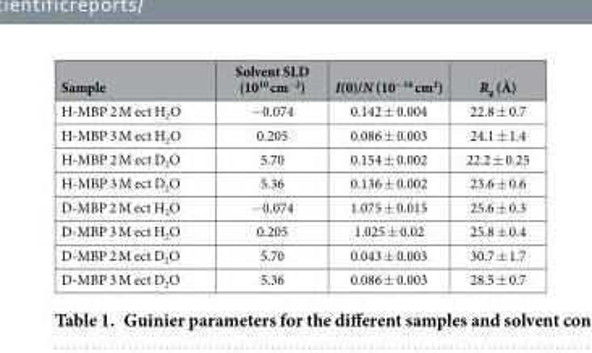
<table><thead><tr><td>Sample</td><td>Solvent SLD (10<sup>10</sup> cm<sup>−2</sup>)</td><td>I(0)/N (10<sup>−16</sup> cm<sup>2</sup>)</td><td>R<sub>g</sub> (Å)</td></tr></thead><tbody><tr><td>H-MBP 2 M ect H<sub>2</sub>O</td><td>− 0.074</td><td>0.142 ± 0.004</td><td>22.8 ± 0.7</td></tr><tr><td>H-MBP 3 M ect H<sub>2</sub>O</td><td>0.205</td><td>0.086 ± 0.003</td><td>24.1 ± 1.4</td></tr><tr><td>H-MBP 2 M ect D<sub>2</sub>O</td><td>5.70</td><td>0.154 ± 0.002</td><td>22.2 ± 0.25</td></tr><tr><td>H-MBP 3 M ect D<sub>2</sub>O</td><td>5.36</td><td>0.136 ± 0.002</td><td>23.6 ± 0.6</td></tr><tr><td>D-MBP 2 M ect H<sub>2</sub>O</td><td>− 0.074</td><td>1.075 ± 0.015</td><td>25.6 ± 0.3</td></tr><tr><td>D-MBP 3 M ect H<sub>2</sub>O</td><td>0.205</td><td>1.025 ± 0.02</td><td>25.8 ± 0.4</td></tr><tr><td>D-MBP 2 M ect D<sub>2</sub>O</td><td>5.70</td><td>0.043 ± 0.003</td><td>30.7 ± 1.7</td></tr><tr><td>D-MBP 3 M ect D<sub>2</sub>O</td><td>5.36</td><td>0.086 ± 0.003</td><td>28.5 ± 0.7</td></tr></tbody></table>